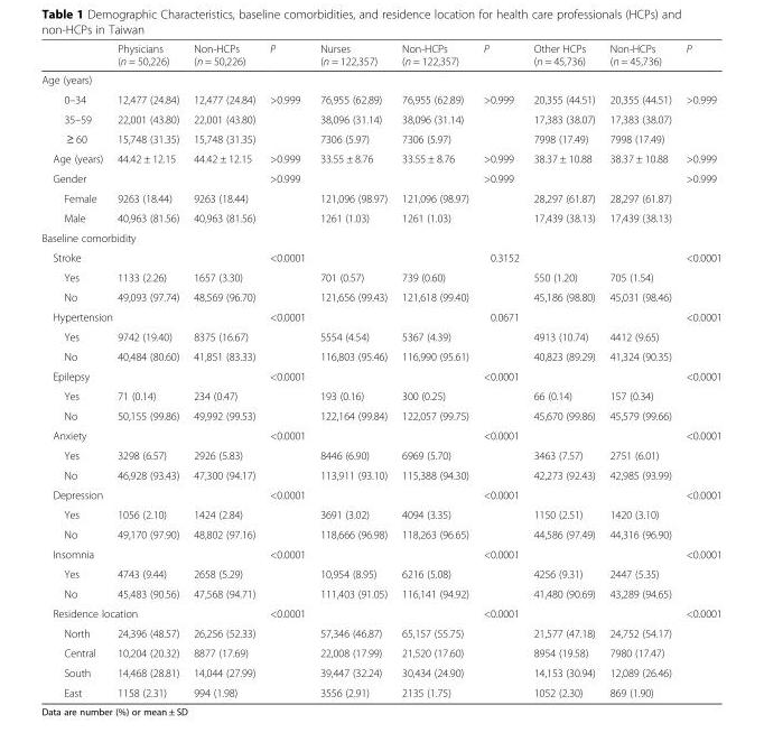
<table><thead><tr><td></td><td>Physicians (n = 50,226)</td><td>Non-HCPs (n = 50,226)</td><td>P</td><td>Nurses (n = 122,357)</td><td>Non-HCPs (n = 122,357)</td><td>P</td><td>Other HCPs (n = 45,736)</td><td>Non-HCPs (n = 45,736)</td><td>P</td></tr></thead><tbody><tr><td colspan="10">Age (years)</td></tr><tr><td>0–34</td><td>12,477 (24.84)</td><td>12,477 (24.84)</td><td>&gt;0.999</td><td>76,955 (62.89)</td><td>76,955 (62.89)</td><td>&gt;0.999</td><td>20,355 (44.51)</td><td>20,355 (44.51)</td><td>&gt;0.999</td></tr><tr><td>35–59</td><td>22,001 (43.80)</td><td>22,001 (43.80)</td><td></td><td>38,096 (31.14)</td><td>38,096 (31.14)</td><td></td><td>17,383 (38.07)</td><td>17,383 (38.07)</td><td></td></tr><tr><td>≥ 60</td><td>15,748 (31.35)</td><td>15,748 (31.35)</td><td></td><td>7306 (5.97)</td><td>7306 (5.97)</td><td></td><td>7998 (17.49)</td><td>7998 (17.49)</td><td></td></tr><tr><td>Age (years)</td><td>44.42 ± 12.15</td><td>44.42 ± 12.15</td><td>&gt;0.999</td><td>33.55 ± 8.76</td><td>33.55 ± 8.76</td><td>&gt;0.999</td><td>38.37 ± 10.88</td><td>38.37 ± 10.88</td><td>&gt;0.999</td></tr><tr><td>Gender</td><td></td><td></td><td>&gt;0.999</td><td></td><td></td><td>&gt;0.999</td><td></td><td></td><td>&gt;0.999</td></tr><tr><td>Female</td><td>9263 (18.44)</td><td>9263 (18.44)</td><td></td><td>121,096 (98.97)</td><td>121,096 (98.97)</td><td></td><td>28,297 (61.87)</td><td>28,297 (61.87)</td><td></td></tr><tr><td>Male</td><td>40,963 (81.56)</td><td>40,963 (81.56)</td><td></td><td>1261 (1.03)</td><td>1261 (1.03)</td><td></td><td>17,439 (38.13)</td><td>17,439 (38.13)</td><td></td></tr><tr><td colspan="10">Baseline comorbidity</td></tr><tr><td>Stroke</td><td></td><td></td><td>&lt;0.0001</td><td></td><td></td><td>0.3152</td><td></td><td></td><td>&lt;0.0001</td></tr><tr><td>Yes</td><td>1133 (2.26)</td><td>1657 (3.30)</td><td></td><td>701 (0.57)</td><td>739 (0.60)</td><td></td><td>550 (1.20)</td><td>705 (1.54)</td><td></td></tr><tr><td>No</td><td>49,093 (97.74)</td><td>48,569 (96.70)</td><td></td><td>121,656 (99.43)</td><td>121,618 (99.40)</td><td></td><td>45,186 (98.80)</td><td>45,031 (98.46)</td><td></td></tr><tr><td colspan="2">Hypertension</td><td></td><td>&lt;0.0001</td><td></td><td></td><td>0.0671</td><td></td><td></td><td>&lt;0.0001</td></tr><tr><td>Yes</td><td>9742 (19.40)</td><td>8375 (16.67)</td><td></td><td>5554 (4.54)</td><td>5367 (4.39)</td><td></td><td>4913 (10.74)</td><td>4412 (9.65)</td><td></td></tr><tr><td>No</td><td>40,484 (80.60)</td><td>41,851 (83.33)</td><td></td><td>116,803 (95.46)</td><td>116,990 (95.61)</td><td></td><td>40,823 (89.29)</td><td>41,324 (90.35)</td><td></td></tr><tr><td>Epilepsy</td><td></td><td></td><td>&lt;0.0001</td><td></td><td></td><td>&lt;0.0001</td><td></td><td></td><td>&lt;0.0001</td></tr><tr><td>Yes</td><td>71 (0.14)</td><td>234 (0.47)</td><td></td><td>193 (0.16)</td><td>300 (0.25)</td><td></td><td>66 (0.14)</td><td>157 (0.34)</td><td></td></tr><tr><td>No</td><td>50,155 (99.86)</td><td>49,992 (99.53)</td><td></td><td>122,164 (99.84)</td><td>122,057 (99.75)</td><td></td><td>45,670 (99.86)</td><td>45,579 (99.66)</td><td></td></tr><tr><td>Anxiety</td><td></td><td></td><td>&lt;0.0001</td><td></td><td></td><td>&lt;0.0001</td><td></td><td></td><td>&lt;0.0001</td></tr><tr><td>Yes</td><td>3298 (6.57)</td><td>2926 (5.83)</td><td></td><td>8446 (6.90)</td><td>6969 (5.70)</td><td></td><td>3463 (7.57)</td><td>2751 (6.01)</td><td></td></tr><tr><td>No</td><td>46,928 (93.43)</td><td>47,300 (94.17)</td><td></td><td>113,911 (93.10)</td><td>115,388 (94.30)</td><td></td><td>42,273 (92.43)</td><td>42,985 (93.99)</td><td></td></tr><tr><td>Depression</td><td></td><td></td><td>&lt;0.0001</td><td></td><td></td><td>&lt;0.0001</td><td></td><td></td><td>&lt;0.0001</td></tr><tr><td>Yes</td><td>1056 (2.10)</td><td>1424 (2.84)</td><td></td><td>3691 (3.02)</td><td>4094 (3.35)</td><td></td><td>1150 (2.51)</td><td>1420 (3.10)</td><td></td></tr><tr><td>No</td><td>49,170 (97.90)</td><td>48,802 (97.16)</td><td></td><td>118,666 (96.98)</td><td>118,263 (96.65)</td><td></td><td>44,586 (97.49)</td><td>44,316 (96.90)</td><td></td></tr><tr><td>Insomnia</td><td></td><td></td><td>&lt;0.0001</td><td></td><td></td><td>&lt;0.0001</td><td></td><td></td><td>&lt;0.0001</td></tr><tr><td>Yes</td><td>4743 (9.44)</td><td>2658 (5.29)</td><td></td><td>10,954 (8.95)</td><td>6216 (5.08)</td><td></td><td>4256 (9.31)</td><td>2447 (5.35)</td><td></td></tr><tr><td>No</td><td>45,483 (90.56)</td><td>47,568 (94.71)</td><td></td><td>111,403 (91.05)</td><td>116,141 (94.92)</td><td></td><td>41,480 (90.69)</td><td>43,289 (94.65)</td><td></td></tr><tr><td colspan="2">Residence location</td><td></td><td>&lt;0.0001</td><td></td><td></td><td>&lt;0.0001</td><td></td><td></td><td>&lt;0.0001</td></tr><tr><td>North</td><td>24,396 (48.57)</td><td>26,256 (52.33)</td><td></td><td>57,346 (46.87)</td><td>65,157 (55.75)</td><td></td><td>21,577 (47.18)</td><td>24,752 (54.17)</td><td></td></tr><tr><td>Central</td><td>10,204 (20.32)</td><td>8877 (17.69)</td><td></td><td>22,008 (17.99)</td><td>21,520 (17.60)</td><td></td><td>8954 (19.58)</td><td>7980 (17.47)</td><td></td></tr><tr><td>South</td><td>14,468 (28.81)</td><td>14,044 (27.99)</td><td></td><td>39,447 (32.24)</td><td>30,434 (24.90)</td><td></td><td>14,153 (30.94)</td><td>12,089 (26.46)</td><td></td></tr><tr><td>East</td><td>1158 (2.31)</td><td>994 (1.98)</td><td></td><td>3556 (2.91)</td><td>2135 (1.75)</td><td></td><td>1052 (2.30)</td><td>869 (1.90)</td><td></td></tr></tbody></table>